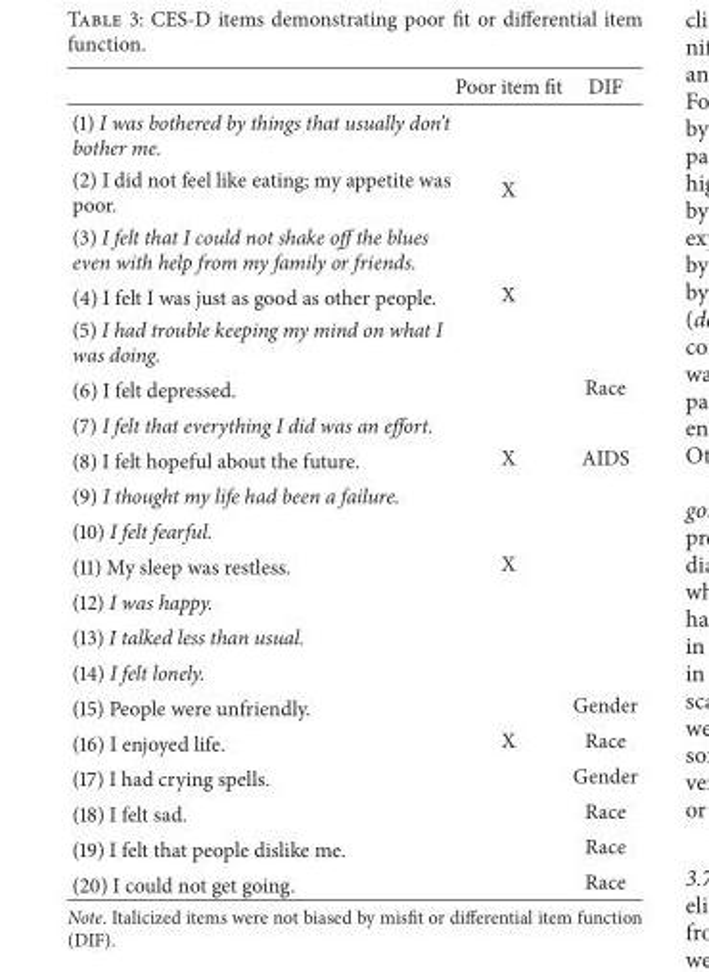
<table><thead><tr><td></td><td>Poor item fit</td><td>DIF</td></tr></thead><tbody><tr><td colspan="3">(1) I was bothered by things that usually don’t bother me.</td></tr><tr><td>(2) I did not feel like eating; my appetite was poor.</td><td>X</td><td></td></tr><tr><td colspan="3">(3) I felt that I could not shake off the blues even with help from my family or friends.</td></tr><tr><td>(4) I felt I was just as good as other people.</td><td>X</td><td></td></tr><tr><td colspan="3">(5) I had trouble keeping my mind on what I was doing.</td></tr><tr><td>(6) I felt depressed.</td><td></td><td>Race</td></tr><tr><td colspan="3">(7) I felt that everything I did was an effort.</td></tr><tr><td>(8) I felt hopeful about the future.</td><td>X</td><td>AIDS</td></tr><tr><td colspan="3">(9) I thought my life had been a failure.</td></tr><tr><td colspan="3">(10) I felt fearful.</td></tr><tr><td>(11) My sleep was restless.</td><td>X</td><td></td></tr><tr><td colspan="3">(12) I was happy.</td></tr><tr><td colspan="3">(13) I talked less than usual.</td></tr><tr><td colspan="3">(14) I felt lonely.</td></tr><tr><td>(15) People were unfriendly.</td><td></td><td>Gender</td></tr><tr><td>(16) I enjoyed life.</td><td>X</td><td>Race</td></tr><tr><td>(17) I had crying spells.</td><td></td><td>Gender</td></tr><tr><td>(18) I felt sad.</td><td></td><td>Race</td></tr><tr><td>(19) I felt that people dislike me.</td><td></td><td>Race</td></tr><tr><td>(20) I could not get going.</td><td></td><td>Race</td></tr></tbody></table>